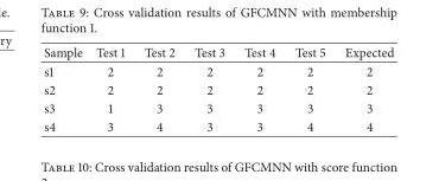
<table><thead><tr><td>Sample</td><td>Test 1</td><td>Test 2</td><td>Test 3</td><td>Test 4</td><td>Test 5</td><td>Expected</td></tr></thead><tbody><tr><td>s1</td><td>2</td><td>2</td><td>2</td><td>2</td><td>2</td><td>2</td></tr><tr><td>s2</td><td>2</td><td>2</td><td>2</td><td>2</td><td>2</td><td>2</td></tr><tr><td>s3</td><td>1</td><td>3</td><td>3</td><td>3</td><td>3</td><td>3</td></tr><tr><td>s4</td><td>3</td><td>4</td><td>3</td><td>3</td><td>4</td><td>4</td></tr></tbody></table>